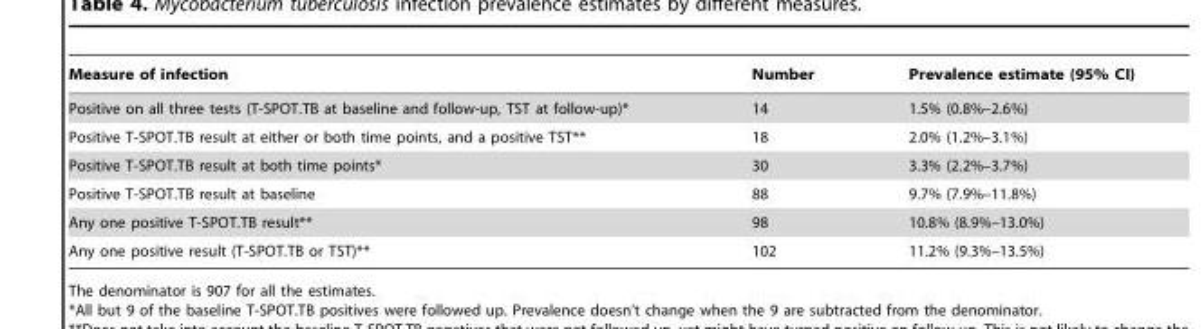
<table><thead><tr><td>Measure of infection</td><td>Number</td><td>Prevalence estimate (95% CI)</td></tr></thead><tbody><tr><td>Positive on all three tests (T-SPOT.TB at baseline and follow-up, TST at follow-up)*</td><td>14</td><td>1.5% (0.8%–2.6%)</td></tr><tr><td>Positive T-SPOT.TB result at either or both time points, and a positive TST**</td><td>18</td><td>2.0% (1.2%–3.1%)</td></tr><tr><td>Positive T-SPOT.TB result at both time points*</td><td>30</td><td>3.3% (2.2%–3.7%)</td></tr><tr><td>Positive T-SPOT.TB result at baseline</td><td>88</td><td>9.7% (7.9%–11.8%)</td></tr><tr><td>Any one positive T-SPOT.TB result**</td><td>98</td><td>10.8% (8.9%–13.0%)</td></tr><tr><td>Any one positive result (T-SPOT.TB or TST)**</td><td>102</td><td>11.2% (9.3%–13.5%)</td></tr></tbody></table>